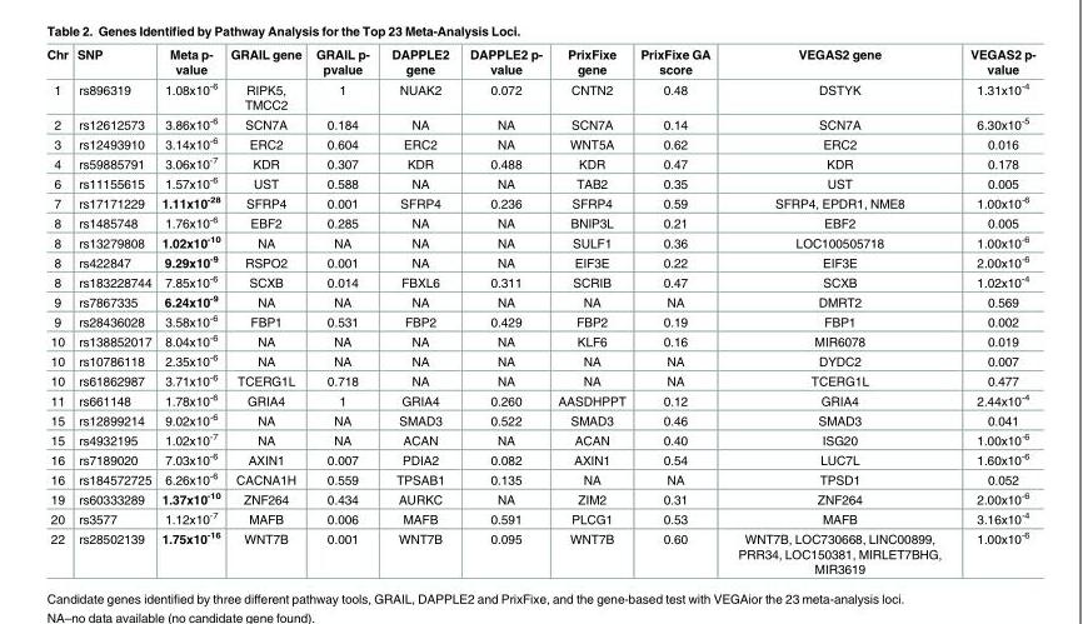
<table><thead><tr><td>Chr</td><td>SNP</td><td>Meta p- value</td><td>GRAIL gene</td><td>GRAIL p- pvalue</td><td>DAPPLE2 gene</td><td>DAPPLE2 p- value</td><td>PrixFixe gene</td><td>PrixFixe GA score</td><td>VEGAS2 gene</td><td>VEGAS2 p- value</td></tr></thead><tbody><tr><td>1</td><td>rs896319</td><td>1.08x10<sup>-6</sup></td><td>RIPK5, TMCC2</td><td>1</td><td>NUAK2</td><td>0.072</td><td>CNTN2</td><td>0.48</td><td>DSTYK</td><td>1.31x10<sup>-4</sup></td></tr><tr><td>2</td><td>rs12612573</td><td>3.86x10<sup>-6</sup></td><td>SCN7A</td><td>0.184</td><td>NA</td><td>NA</td><td>SCN7A</td><td>0.14</td><td>SCN7A</td><td>6.30x10<sup>-5</sup></td></tr><tr><td>3</td><td>rs12493910</td><td>3.14x10<sup>-6</sup></td><td>ERC2</td><td>0.604</td><td>ERC2</td><td>NA</td><td>WNT5A</td><td>0.62</td><td>ERC2</td><td>0.016</td></tr><tr><td>4</td><td>rs59885791</td><td>3.06x10<sup>-7</sup></td><td>KDR</td><td>0.307</td><td>KDR</td><td>0.488</td><td>KDR</td><td>0.47</td><td>KDR</td><td>0.178</td></tr><tr><td>6</td><td>rs11155615</td><td>1.57x10<sup>-6</sup></td><td>UST</td><td>0.588</td><td>NA</td><td>NA</td><td>TAB2</td><td>0.35</td><td>UST</td><td>0.005</td></tr><tr><td>7</td><td>rs17171229</td><td>1.11x10<sup>-28</sup></td><td>SFRP4</td><td>0.001</td><td>SFRP4</td><td>0.236</td><td>SFRP4</td><td>0.59</td><td>SFRP4, EPDR1, NME8</td><td>1.00x10<sup>-6</sup></td></tr><tr><td>8</td><td>rs1485748</td><td>1.76x10<sup>-6</sup></td><td>EBF2</td><td>0.285</td><td>NA</td><td>NA</td><td>BNIP3L</td><td>0.21</td><td>EBF2</td><td>0.005</td></tr><tr><td>8</td><td>rs13279808</td><td>1.02x10<sup>-10</sup></td><td>NA</td><td>NA</td><td>NA</td><td>NA</td><td>SULF1</td><td>0.36</td><td>LOC100505718</td><td>1.00x10<sup>-6</sup></td></tr><tr><td>8</td><td>rs422847</td><td>9.29x10<sup>-9</sup></td><td>RSPO2</td><td>0.001</td><td>NA</td><td>NA</td><td>EIF3E</td><td>0.22</td><td>EIF3E</td><td>2.00x10<sup>-6</sup></td></tr><tr><td>8</td><td>rs183228744</td><td>7.85x10<sup>-6</sup></td><td>SCXB</td><td>0.014</td><td>FBXL6</td><td>0.311</td><td>SCRIB</td><td>0.47</td><td>SCXB</td><td>1.02x10<sup>-4</sup></td></tr><tr><td>9</td><td>rs7867335</td><td>6.24x10<sup>-9</sup></td><td>NA</td><td>NA</td><td>NA</td><td>NA</td><td>NA</td><td>NA</td><td>DMRT2</td><td>0.569</td></tr><tr><td>9</td><td>rs28436028</td><td>3.58x10<sup>-6</sup></td><td>FBP1</td><td>0.531</td><td>FBP2</td><td>0.429</td><td>FBP2</td><td>0.19</td><td>FBP1</td><td>0.002</td></tr><tr><td>10</td><td>rs138852017</td><td>8.04x10<sup>-6</sup></td><td>NA</td><td>NA</td><td>NA</td><td>NA</td><td>KLF6</td><td>0.16</td><td>MIR6078</td><td>0.019</td></tr><tr><td>10</td><td>rs10786118</td><td>2.35x10<sup>-6</sup></td><td>NA</td><td>NA</td><td>NA</td><td>NA</td><td>NA</td><td>NA</td><td>DYDC2</td><td>0.007</td></tr><tr><td>10</td><td>rs61862987</td><td>3.71x10<sup>-6</sup></td><td>TCERG1L</td><td>0.718</td><td>NA</td><td>NA</td><td>NA</td><td>NA</td><td>TCERG1L</td><td>0.477</td></tr><tr><td>11</td><td>rs661148</td><td>1.78x10<sup>-6</sup></td><td>GRIA4</td><td>1</td><td>GRIA4</td><td>0.260</td><td>AASDHPPT</td><td>0.12</td><td>GRIA4</td><td>2.44x10<sup>-4</sup></td></tr><tr><td>15</td><td>rs12899214</td><td>9.02x10<sup>-6</sup></td><td>NA</td><td>NA</td><td>SMAD3</td><td>0.522</td><td>SMAD3</td><td>0.46</td><td>SMAD3</td><td>0.041</td></tr><tr><td>15</td><td>rs4932195</td><td>1.02x10<sup>-7</sup></td><td>NA</td><td>NA</td><td>ACAN</td><td>NA</td><td>ACAN</td><td>0.40</td><td>ISG20</td><td>1.00x10<sup>-6</sup></td></tr><tr><td>16</td><td>rs7189020</td><td>7.03x10<sup>-6</sup></td><td>AXIN1</td><td>0.007</td><td>PDIA2</td><td>0.082</td><td>AXIN1</td><td>0.54</td><td>LUC7L</td><td>1.60x10<sup>-6</sup></td></tr><tr><td>16</td><td>rs184572725</td><td>6.26x10<sup>-6</sup></td><td>CACNA1H</td><td>0.559</td><td>TPSAB1</td><td>0.135</td><td>NA</td><td>NA</td><td>TPSD1</td><td>0.052</td></tr><tr><td>19</td><td>rs60333289</td><td>1.37x10<sup>-10</sup></td><td>ZNF264</td><td>0.434</td><td>AURKC</td><td>NA</td><td>ZIM2</td><td>0.31</td><td>ZNF264</td><td>2.00x10<sup>-6</sup></td></tr><tr><td>20</td><td>rs3577</td><td>1.12x10<sup>-7</sup></td><td>MAFB</td><td>0.006</td><td>MAFB</td><td>0.591</td><td>PLCG1</td><td>0.53</td><td>MAFB</td><td>3.16x10<sup>-4</sup></td></tr><tr><td>22</td><td>rs28502139</td><td>1.75x10<sup>-16</sup></td><td>WNT7B</td><td>0.001</td><td>WNT7B</td><td>0.095</td><td>WNT7B</td><td>0.60</td><td>WNT7B, LOC730668, LINC00899, PRR34, LOC150381, MIRLET7BHG, MIR3619</td><td>1.00x10<sup>-6</sup></td></tr></tbody></table>